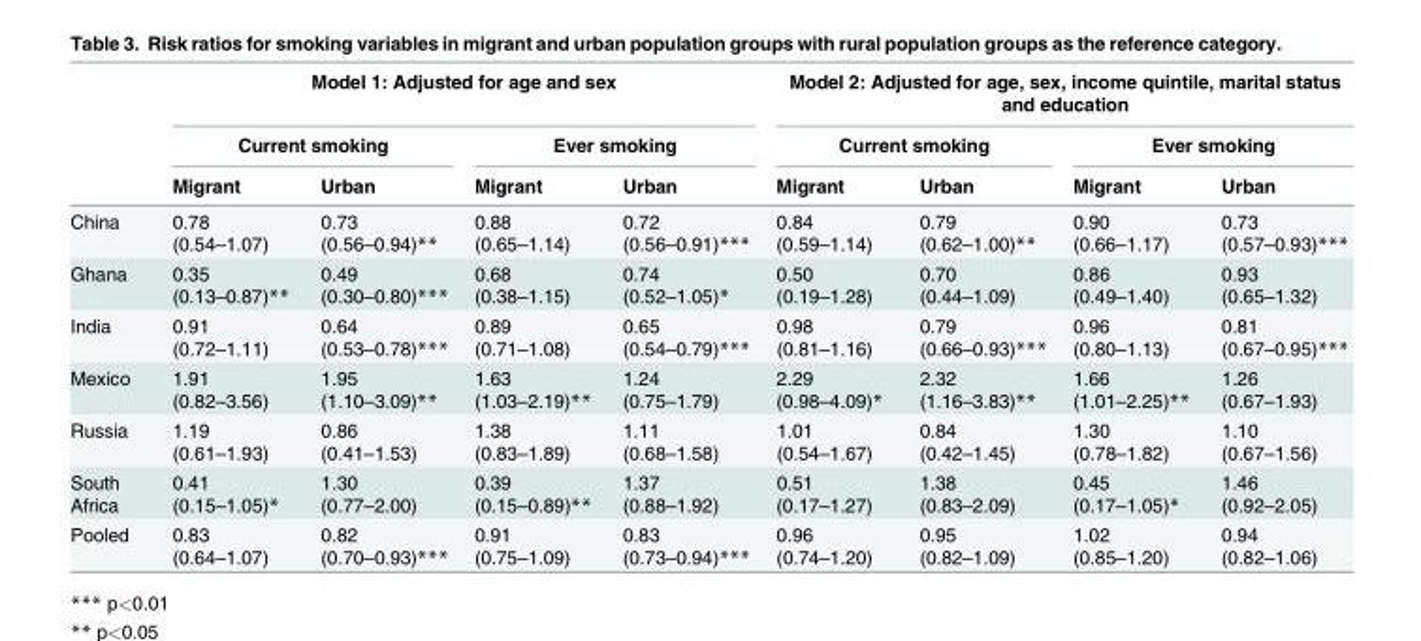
<table><thead><tr><td rowspan="3"></td><td colspan="4">Model 1: Adjusted for age and sex</td><td colspan="4">Model 2: Adjusted for age, sex, income quintile, marital status and education</td></tr><tr><td colspan="2">Current smoking</td><td colspan="2">Ever smoking</td><td colspan="2">Current smoking</td><td colspan="2">Ever smoking</td></tr><tr><td>Migrant</td><td>Urban</td><td>Migrant</td><td>Urban</td><td>Migrant</td><td>Urban</td><td>Migrant</td><td>Urban</td></tr></thead><tbody><tr><td>China</td><td>0.78 (0.54–1.07)</td><td>0.73 (0.56–0.94)**</td><td>0.88 (0.65–1.14)</td><td>0.72 (0.56–0.91)***</td><td>0.84 (0.59–1.14)</td><td>0.79 (0.62–1.00)**</td><td>0.90 (0.66–1.17)</td><td>0.73 (0.57–0.93)***</td></tr><tr><td>Ghana</td><td>0.35 (0.13–0.87)**</td><td>0.49 (0.30–0.80)***</td><td>0.68 (0.38–1.15)</td><td>0.74 (0.52–1.05)*</td><td>0.50 (0.19–1.28)</td><td>0.70 (0.44–1.09)</td><td>0.86 (0.49–1.40)</td><td>0.93 (0.65–1.32)</td></tr><tr><td>India</td><td>0.91 (0.72–1.11)</td><td>0.64 (0.53–0.78)***</td><td>0.89 (0.71–1.08)</td><td>0.65 (0.54–0.79)***</td><td>0.98 (0.81–1.16)</td><td>0.79 (0.66–0.93)***</td><td>0.96 (0.80–1.13)</td><td>0.81 (0.67–0.95)***</td></tr><tr><td>Mexico</td><td>1.91 (0.82–3.56)</td><td>1.95 (1.10–3.09)**</td><td>1.63 (1.03–2.19)**</td><td>1.24 (0.75–1.79)</td><td>2.29 (0.98–4.09)*</td><td>2.32 (1.16–3.83)**</td><td>1.66 (1.01–2.25)**</td><td>1.26 (0.67–1.93)</td></tr><tr><td>Russia</td><td>1.19 (0.61–1.93)</td><td>0.86 (0.41–1.53)</td><td>1.38 (0.83–1.89)</td><td>1.11 (0.68–1.58)</td><td>1.01 (0.54–1.67)</td><td>0.84 (0.42–1.45)</td><td>1.30 (0.78–1.82)</td><td>1.10 (0.67–1.56)</td></tr><tr><td>South Africa</td><td>0.41 (0.15–1.05)*</td><td>1.30 (0.77–2.00)</td><td>0.39 (0.15–0.89)**</td><td>1.37 (0.88–1.92)</td><td>0.51 (0.17–1.27)</td><td>1.38 (0.83–2.09)</td><td>0.45 (0.17–1.05)*</td><td>1.46 (0.92–2.05)</td></tr><tr><td>Pooled</td><td>0.83 (0.64–1.07)</td><td>0.82 (0.70–0.93)***</td><td>0.91 (0.75–1.09)</td><td>0.83 (0.73–0.94)***</td><td>0.96 (0.74–1.20)</td><td>0.95 (0.82–1.09)</td><td>1.02 (0.85–1.20)</td><td>0.94 (0.82–1.06)</td></tr></tbody></table>